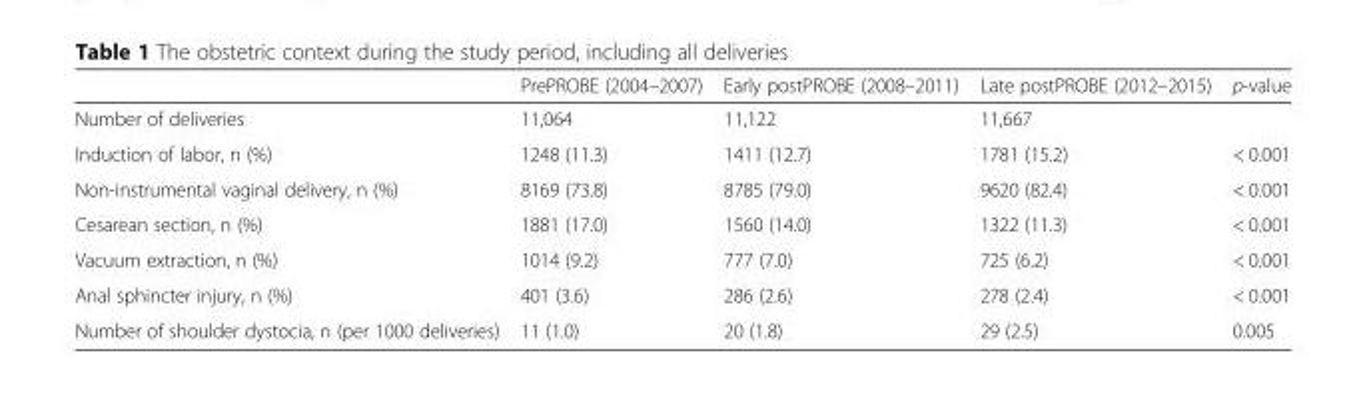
<table><thead><tr><td></td><td>PrePROBE (2004–2007)</td><td>Early postPROBE (2008–2011)</td><td>Late postPROBE (2012–2015)</td><td>p-value</td></tr></thead><tbody><tr><td>Number of deliveries</td><td>11,064</td><td>11,122</td><td>11,667</td><td></td></tr><tr><td>Induction of labor, n (%)</td><td>1248 (11.3)</td><td>1411 (12.7)</td><td>1781 (15.2)</td><td>&lt; 0.001</td></tr><tr><td>Non-instrumental vaginal delivery, n (%)</td><td>8169 (73.8)</td><td>8785 (79.0)</td><td>9620 (82.4)</td><td>&lt; 0.001</td></tr><tr><td>Cesarean section, n (%)</td><td>1881 (17.0)</td><td>1560 (14.0)</td><td>1322 (11.3)</td><td>&lt; 0.001</td></tr><tr><td>Vacuum extraction, n (%)</td><td>1014 (9.2)</td><td>777 (7.0)</td><td>725 (6.2)</td><td>&lt; 0.001</td></tr><tr><td>Anal sphincter injury, n (%)</td><td>401 (3.6)</td><td>286 (2.6)</td><td>278 (2.4)</td><td>&lt; 0.001</td></tr><tr><td>Number of shoulder dystocia, n (per 1000 deliveries)</td><td>11 (1.0)</td><td>20 (1.8)</td><td>29 (2.5)</td><td>0.005</td></tr></tbody></table>